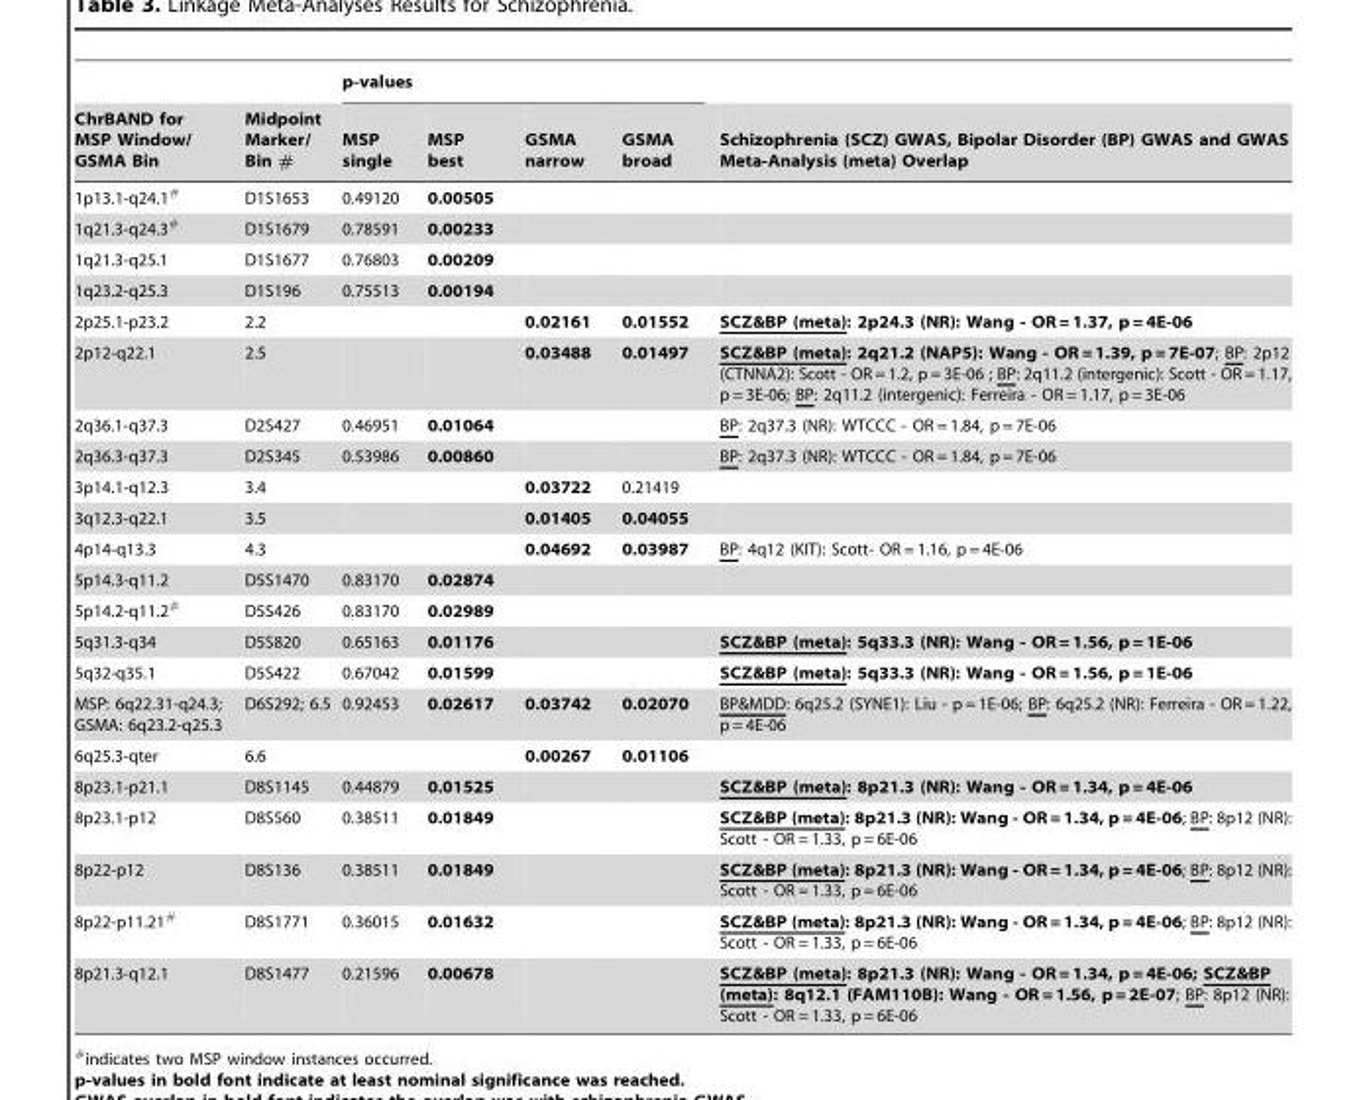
<table><thead><tr><td rowspan="2">ChrBAND for MSP Window/ GSMA Bin</td><td rowspan="2">Midpoint Marker/ Bin #</td><td colspan="4">p-values</td><td rowspan="2">Schizophrenia (SCZ) GWAS, Bipolar Disorder (BP) GWAS and GWAS Meta-Analysis (meta) Overlap</td></tr><tr><td>MSP single</td><td>MSP best</td><td>GSMA narrow</td><td>GSMA broad</td></tr></thead><tbody><tr><td>1p13.1-q24.1#</td><td>D1S1653</td><td>0.49120</td><td>0.00505</td><td></td><td></td><td></td></tr><tr><td>1q21.3-q24.3#</td><td>D1S1679</td><td>0.78591</td><td>0.00233</td><td></td><td></td><td></td></tr><tr><td>1q21.3-q25.1</td><td>D1S1677</td><td>0.76803</td><td>0.00209</td><td></td><td></td><td></td></tr><tr><td>1q23.2-q25.3</td><td>D1S196</td><td>0.75513</td><td>0.00194</td><td></td><td></td><td></td></tr><tr><td>2p25.1-p23.2</td><td>2.2</td><td></td><td></td><td>0.02161</td><td>0.01552</td><td>SCZ&amp;BP (meta): 2p24.3 (NR): Wang - OR = 1.37, p = 4E-06</td></tr><tr><td>2p12-q22.1</td><td>2.5</td><td></td><td></td><td>0.03488</td><td>0.01497</td><td>SCZ&amp;BP (meta): 2q21.2 (NAP5): Wang - OR = 1.39, p = 7E-07; BP: 2p12 (CTNNA2): Scott - OR = 1.2, p = 3E-06 ; BP: 2q11.2 (intergenic): Scott - OR = 1.17, p = 3E-06; BP: 2q11.2 (intergenic): Ferreira - OR = 1.17, p = 3E-06</td></tr><tr><td>2q36.1-q37.3</td><td>D2S427</td><td>0.46951</td><td>0.01064</td><td></td><td></td><td>BP: 2q37.3 (NR): WTCCC - OR = 1.84, p = 7E-06</td></tr><tr><td>2q36.3-q37.3</td><td>D2S345</td><td>0.53986</td><td>0.00860</td><td></td><td></td><td>BP: 2q37.3 (NR): WTCCC - OR = 1.84, p = 7E-06</td></tr><tr><td>3p14.1-q12.3</td><td>3.4</td><td></td><td></td><td>0.03722</td><td>0.21419</td><td></td></tr><tr><td>3q12.3-q22.1</td><td>3.5</td><td></td><td></td><td>0.01405</td><td>0.04055</td><td></td></tr><tr><td>4p14-q13.3</td><td>4.3</td><td></td><td></td><td>0.04692</td><td>0.03987</td><td>BP: 4q12 (KIT): Scott- OR = 1.16, p = 4E-06</td></tr><tr><td>5p14.3-q11.2</td><td>D5S1470</td><td>0.83170</td><td>0.02874</td><td></td><td></td><td></td></tr><tr><td>5p14.2-q11.2#</td><td>D5S426</td><td>0.83170</td><td>0.02989</td><td></td><td></td><td></td></tr><tr><td>5q31.3-q34</td><td>D5S820</td><td>0.65163</td><td>0.01176</td><td></td><td></td><td>SCZ&amp;BP (meta): 5q33.3 (NR): Wang - OR = 1.56, p = 1E-06</td></tr><tr><td>5q32-q35.1</td><td>D5S422</td><td>0.67042</td><td>0.01599</td><td></td><td></td><td>SCZ&amp;BP (meta): 5q33.3 (NR): Wang - OR = 1.56, p = 1E-06</td></tr><tr><td>MSP: 6q22.31-q24.3; GSMA: 6q23.2-q25.3</td><td>D6S292; 6.5</td><td>0.92453</td><td>0.02617</td><td>0.03742</td><td>0.02070</td><td>BP&amp;MDD: 6q25.2 (SYNE1): Liu - p = 1E-06; BP: 6q25.2 (NR): Ferreira - OR = 1.22, p = 4E-06</td></tr><tr><td>6q25.3-qter</td><td>6.6</td><td></td><td></td><td>0.00267</td><td>0.01106</td><td></td></tr><tr><td>8p23.1-p21.1</td><td>D8S1145</td><td>0.44879</td><td>0.01525</td><td></td><td></td><td>SCZ&amp;BP (meta): 8p21.3 (NR): Wang - OR = 1.34, p = 4E-06</td></tr><tr><td>8p23.1-p12</td><td>D8S560</td><td>0.38511</td><td>0.01849</td><td></td><td></td><td>SCZ&amp;BP (meta): 8p21.3 (NR): Wang - OR = 1.34, p = 4E-06; BP: 8p12 (NR): Scott - OR = 1.33, p = 6E-06</td></tr><tr><td>8p22-p12</td><td>D8S136</td><td>0.38511</td><td>0.01849</td><td></td><td></td><td>SCZ&amp;BP (meta): 8p21.3 (NR): Wang - OR = 1.34, p = 4E-06; BP: 8p12 (NR): Scott - OR = 1.33, p = 6E-06</td></tr><tr><td>8p22-p11.21#</td><td>D8S1771</td><td>0.36015</td><td>0.01632</td><td></td><td></td><td>SCZ&amp;BP (meta): 8p21.3 (NR): Wang - OR = 1.34, p = 4E-06; BP: 8p12 (NR): Scott - OR = 1.33, p = 6E-06</td></tr><tr><td>8p21.3-q12.1</td><td>D8S1477</td><td>0.21596</td><td>0.00678</td><td></td><td></td><td>SCZ&amp;BP (meta): 8p21.3 (NR): Wang - OR = 1.34, p = 4E-06; SCZ&amp;BP (meta): 8q12.1 (FAM110B): Wang - OR = 1.56, p = 2E-07; BP: 8p12 (NR): Scott - OR = 1.33, p = 6E-06</td></tr></tbody></table>